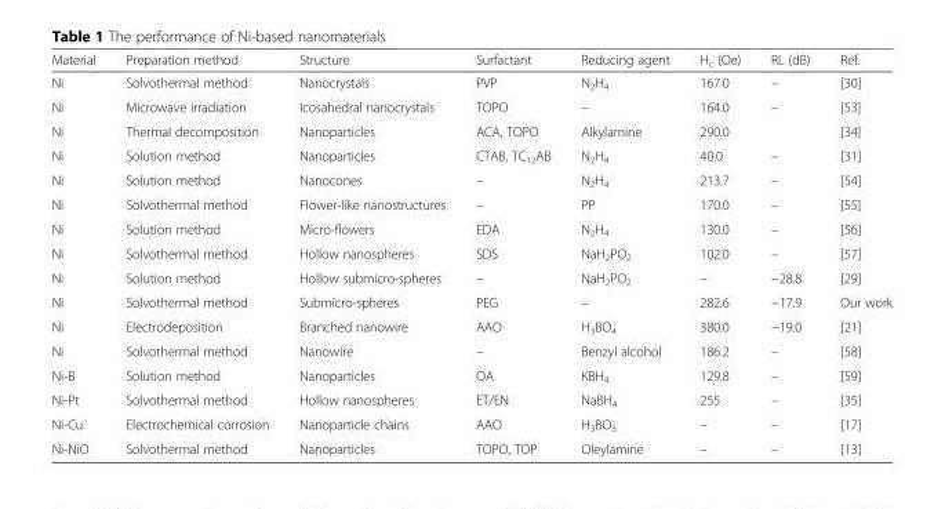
<table><thead><tr><td>Material</td><td>Preparation method</td><td>Structure</td><td>Surfactant</td><td>Reducing agent</td><td>H<sub>c</sub> (Oe)</td><td>RL (dB)</td><td>Ref.</td></tr></thead><tbody><tr><td>Ni</td><td>Solvothermal method</td><td>Nanocrystals</td><td>PVP</td><td>N<sub>2</sub>H<sub>4</sub></td><td>167.0</td><td>–</td><td>[30]</td></tr><tr><td>Ni</td><td>Microwave irradiation</td><td>Icosahedral nanocrystals</td><td>TOPO</td><td>–</td><td>164.0</td><td>–</td><td>[53]</td></tr><tr><td>Ni</td><td>Thermal decomposition</td><td>Nanoparticles</td><td>ACA, TOPO</td><td>Alkylamine</td><td>290.0</td><td></td><td>[34]</td></tr><tr><td>Ni</td><td>Solution method</td><td>Nanoparticles</td><td>CTAB, TC<sub>12</sub>AB</td><td>N<sub>2</sub>H<sub>4</sub></td><td>40.0</td><td>–</td><td>[31]</td></tr><tr><td>Ni</td><td>Solution method</td><td>Nanocones</td><td>–</td><td>N<sub>2</sub>H<sub>4</sub></td><td>213.7</td><td>–</td><td>[54]</td></tr><tr><td>Ni</td><td>Solvothermal method</td><td>Flower-like nanostructures</td><td>–</td><td>PP</td><td>170.0</td><td>–</td><td>[55]</td></tr><tr><td>Ni</td><td>Solution method</td><td>Micro-flowers</td><td>EDA</td><td>N<sub>2</sub>H<sub>4</sub></td><td>130.0</td><td>–</td><td>[56]</td></tr><tr><td>Ni</td><td>Solvothermal method</td><td>Hollow nanospheres</td><td>SDS</td><td>NaH<sub>2</sub>PO<sub>2</sub></td><td>102.0</td><td>–</td><td>[57]</td></tr><tr><td>Ni</td><td>Solution method</td><td>Hollow submicro-spheres</td><td>–</td><td>NaH<sub>2</sub>PO<sub>2</sub></td><td>–</td><td>−28.8</td><td>[29]</td></tr><tr><td>Ni</td><td>Solvothermal method</td><td>Submicro-spheres</td><td>PEG</td><td>–</td><td>282.6</td><td>−17.9</td><td>Our work</td></tr><tr><td>Ni</td><td>Electrodeposition</td><td>Branched nanowire</td><td>AAO</td><td>H<sub>3</sub>BO<sub>4</sub></td><td>380.0</td><td>−19.0</td><td>[21]</td></tr><tr><td>Ni</td><td>Solvothermal method</td><td>Nanowire</td><td>–</td><td>Benzyl alcohol</td><td>186.2</td><td>–</td><td>[58]</td></tr><tr><td>Ni-B</td><td>Solution method</td><td>Nanoparticles</td><td>OA</td><td>KBH<sub>4</sub></td><td>129.8</td><td>–</td><td>[59]</td></tr><tr><td>Ni-Pt</td><td>Solvothermal method</td><td>Hollow nanospheres</td><td>ET/EN</td><td>NaBH<sub>4</sub></td><td>255</td><td>–</td><td>[35]</td></tr><tr><td>Ni-Cu</td><td>Electrochemical corrosion</td><td>Nanoparticle chains</td><td>AAO</td><td>H<sub>3</sub>BO<sub>3</sub></td><td>–</td><td>–</td><td>[17]</td></tr><tr><td>Ni-NiO</td><td>Solvothermal method</td><td>Nanoparticles</td><td>TOPO, TOP</td><td>Oleylamine</td><td>–</td><td>–</td><td>[13]</td></tr></tbody></table>